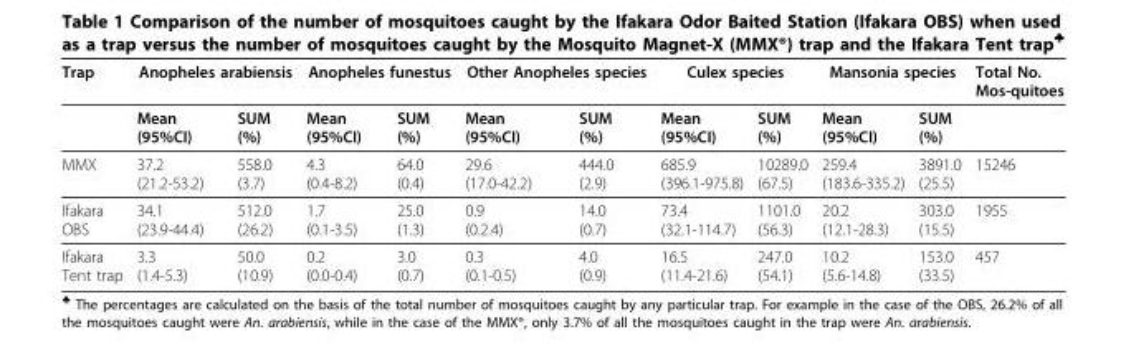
<table><thead><tr><td rowspan="2">Trap</td><td colspan="2">Anopheles arabiensis</td><td colspan="2">Anopheles funestus</td><td colspan="2">Other Anopheles species</td><td colspan="2">Culex species</td><td colspan="2">Mansonia species</td><td rowspan="2">Total No. Mos-quitoes</td></tr><tr><td>Mean (95%CI)</td><td>SUM (%)</td><td>Mean (95%CI)</td><td>SUM (%)</td><td>Mean (95%CI)</td><td>SUM (%)</td><td>Mean (95%CI)</td><td>SUM (%)</td><td>Mean (95%CI)</td><td>SUM (%)</td></tr></thead><tbody><tr><td>MMX</td><td>37.2 (21.2-53.2)</td><td>558.0 (3.7)</td><td>4.3 (0.4-8.2)</td><td>64.0 (0.4)</td><td>29.6 (17.0-42.2)</td><td>444.0 (2.9)</td><td>685.9 (396.1-975.8)</td><td>10289.0 (67.5)</td><td>259.4 (183.6-335.2)</td><td>3891.0 (25.5)</td><td>15246</td></tr><tr><td>Ifakara OBS</td><td>34.1 (23.9-44.4)</td><td>512.0 (26.2)</td><td>1.7 (0.1-3.5)</td><td>25.0 (1.3)</td><td>0.9 (0.2.4)</td><td>14.0 (0.7)</td><td>73.4 (32.1-114.7)</td><td>1101.0 (56.3)</td><td>20.2 (12.1-28.3)</td><td>303.0 (15.5)</td><td>1955</td></tr><tr><td>Ifakara Tent trap</td><td>3.3 (1.4-5.3)</td><td>50.0 (10.9)</td><td>0.2 (0.0-0.4)</td><td>3.0 (0.7)</td><td>0.3 (0.1-0.5)</td><td>4.0 (0.9)</td><td>16.5 (11.4-21.6)</td><td>247.0 (54.1)</td><td>10.2 (5.6-14.8)</td><td>153.0 (33.5)</td><td>457</td></tr></tbody></table>